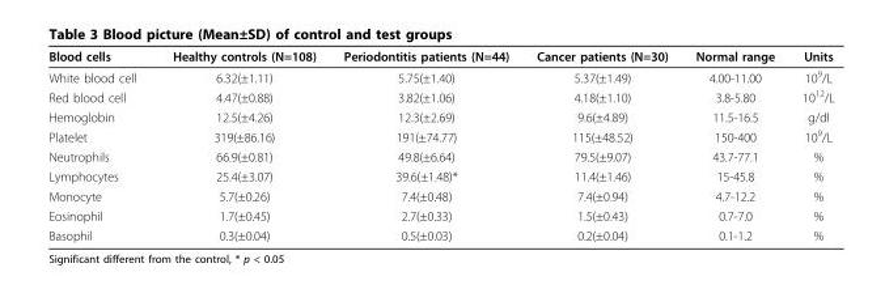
<table><thead><tr><td>Blood cells</td><td>Healthy controls (N=108)</td><td>Periodontitis patients (N=44)</td><td>Cancer patients (N=30)</td><td>Normal range</td><td>Units</td></tr></thead><tbody><tr><td>White blood cell</td><td>6.32(±1.11)</td><td>5.75(±1.40)</td><td>5.37(±1.49)</td><td>4.00-11.00</td><td>10<sup>9</sup>/L</td></tr><tr><td>Red blood cell</td><td>4.47(±0.88)</td><td>3.82(±1.06)</td><td>4.18(±1.10)</td><td>3.8-5.80</td><td>10<sup>12</sup>/L</td></tr><tr><td>Hemoglobin</td><td>12.5(±4.26)</td><td>12.3(±2.69)</td><td>9.6(±4.89)</td><td>11.5-16.5</td><td>g/dl</td></tr><tr><td>Platelet</td><td>319(±86.16)</td><td>191(±74.77)</td><td>115(±48.52)</td><td>150-400</td><td>10<sup>9</sup>/L</td></tr><tr><td>Neutrophils</td><td>66.9(±0.81)</td><td>49.8(±6.64)</td><td>79.5(±9.07)</td><td>43.7-77.1</td><td>%</td></tr><tr><td>Lymphocytes</td><td>25.4(±3.07)</td><td>39.6(±1.48)*</td><td>11.4(±1.46)</td><td>15-45.8</td><td>%</td></tr><tr><td>Monocyte</td><td>5.7(±0.26)</td><td>7.4(±0.48)</td><td>7.4(±0.94)</td><td>4.7-12.2</td><td>%</td></tr><tr><td>Eosinophil</td><td>1.7(±0.45)</td><td>2.7(±0.33)</td><td>1.5(±0.43)</td><td>0.7-7.0</td><td>%</td></tr><tr><td>Basophil</td><td>0.3(±0.04)</td><td>0.5(±0.03)</td><td>0.2(±0.04)</td><td>0.1-1.2</td><td>%</td></tr></tbody></table>